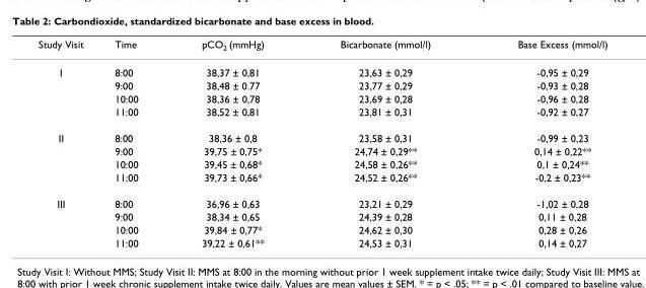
<table><thead><tr><td>Study Visit</td><td>Time</td><td>pCO<sub>2</sub> (mmHg)</td><td>Bicarbonate (mmol/l)</td><td>Base Excess (mmol/l)</td></tr></thead><tbody><tr><td rowspan="4">I</td><td>8:00</td><td>38,37 ± 0,81</td><td>23,63 ± 0,29</td><td>-0,95 ± 0,29</td></tr><tr><td>9:00</td><td>38,48 ± 0.77</td><td>23,77 ± 0,29</td><td>-0,93 ± 0,28</td></tr><tr><td>10:00</td><td>38,36 ± 0,78</td><td>23,69 ± 0,28</td><td>-0,96 ± 0,28</td></tr><tr><td>11:00</td><td>38,52 ± 0,81</td><td>23,81 ± 0,31</td><td>-0,92 ± 0,27</td></tr><tr><td rowspan="4">II</td><td>8:00</td><td>38,36 ± 0,8</td><td>23,58 ± 0,31</td><td>-0,99 ± 0,23</td></tr><tr><td>9:00</td><td>39,75 ± 0,75*</td><td>24,74 ± 0,29**</td><td>0,14 ± 0,22**</td></tr><tr><td>10:00</td><td>39,45 ± 0,68*</td><td>24,58 ± 0,26**</td><td>0,1 ± 0,24**</td></tr><tr><td>11:00</td><td>39,73 ± 0,66*</td><td>24,52 ± 0,26**</td><td>-0,2 ± 0,23**</td></tr><tr><td rowspan="4">III</td><td>8:00</td><td>36,96 ± 0,63</td><td>23,21 ± 0,29</td><td>-1,02 ± 0,28</td></tr><tr><td>9:00</td><td>38,34 ± 0,65</td><td>24,39 ± 0,28</td><td>0,11 ± 0,28</td></tr><tr><td>10:00</td><td>39,84 ± 0,77*</td><td>24,62 ± 0,30</td><td>0,28 ± 0,26</td></tr><tr><td>11:00</td><td>39,22 ± 0,61**</td><td>24,53 ± 0,31</td><td>0,14 ± 0,27</td></tr></tbody></table>